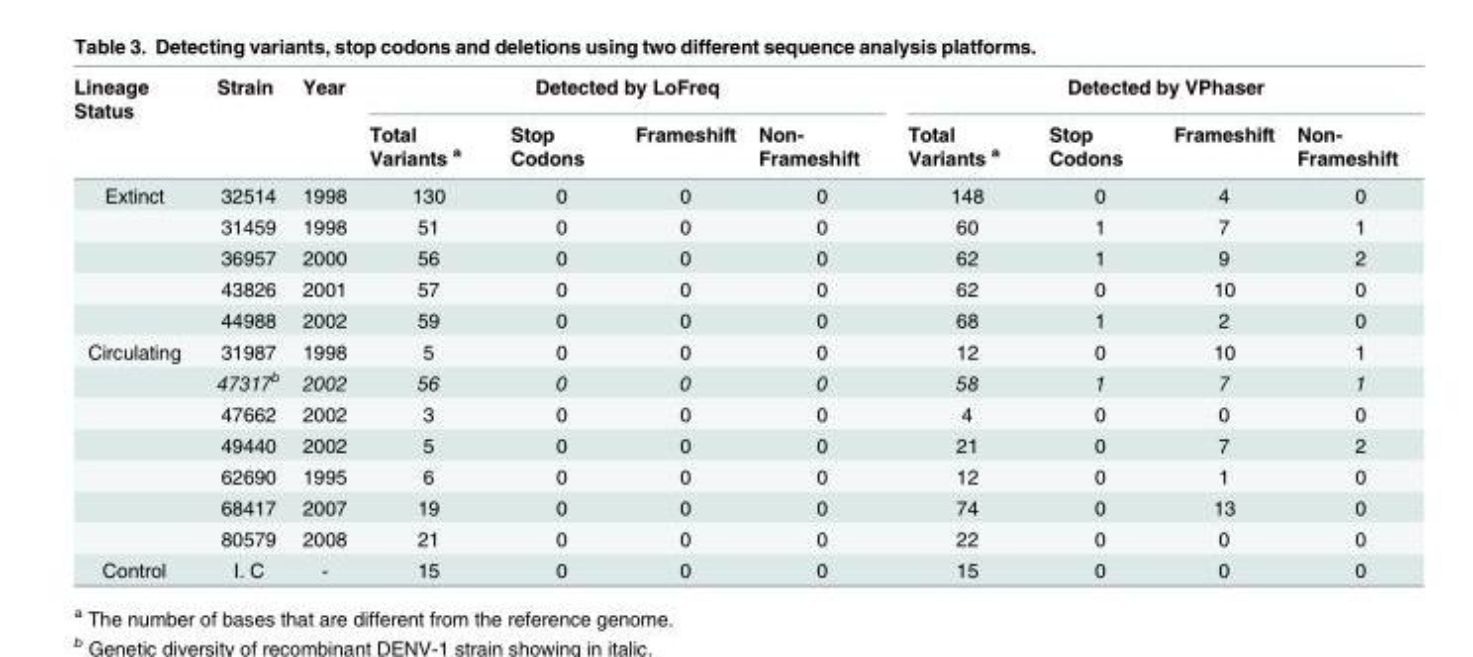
<table><thead><tr><td rowspan="2">Lineage Status</td><td rowspan="2">Strain</td><td rowspan="2">Year</td><td colspan="4">Detected by LoFreq</td><td colspan="4">Detected by VPhaser</td></tr><tr><td>Total Variants <sup>a</sup></td><td>Stop Codons</td><td>Frameshift</td><td>Non- Frameshift</td><td>Total Variants <sup>a</sup></td><td>Stop Codons</td><td>Frameshift</td><td>Non- Frameshift</td></tr></thead><tbody><tr><td rowspan="5">Extinct</td><td>32514</td><td>1998</td><td>130</td><td>0</td><td>0</td><td>0</td><td>148</td><td>0</td><td>4</td><td>0</td></tr><tr><td>31459</td><td>1998</td><td>51</td><td>0</td><td>0</td><td>0</td><td>60</td><td>1</td><td>7</td><td>1</td></tr><tr><td>36957</td><td>2000</td><td>56</td><td>0</td><td>0</td><td>0</td><td>62</td><td>1</td><td>9</td><td>2</td></tr><tr><td>43826</td><td>2001</td><td>57</td><td>0</td><td>0</td><td>0</td><td>62</td><td>0</td><td>10</td><td>0</td></tr><tr><td>44988</td><td>2002</td><td>59</td><td>0</td><td>0</td><td>0</td><td>68</td><td>1</td><td>2</td><td>0</td></tr><tr><td rowspan="7">Circulating</td><td>31987</td><td>1998</td><td>5</td><td>0</td><td>0</td><td>0</td><td>12</td><td>0</td><td>10</td><td>1</td></tr><tr><td>47317<sup>b</sup></td><td>2002</td><td>56</td><td>0</td><td>0</td><td>0</td><td>58</td><td>1</td><td>7</td><td>1</td></tr><tr><td>47662</td><td>2002</td><td>3</td><td>0</td><td>0</td><td>0</td><td>4</td><td>0</td><td>0</td><td>0</td></tr><tr><td>49440</td><td>2002</td><td>5</td><td>0</td><td>0</td><td>0</td><td>21</td><td>0</td><td>7</td><td>2</td></tr><tr><td>62690</td><td>1995</td><td>6</td><td>0</td><td>0</td><td>0</td><td>12</td><td>0</td><td>1</td><td>0</td></tr><tr><td>68417</td><td>2007</td><td>19</td><td>0</td><td>0</td><td>0</td><td>74</td><td>0</td><td>13</td><td>0</td></tr><tr><td>80579</td><td>2008</td><td>21</td><td>0</td><td>0</td><td>0</td><td>22</td><td>0</td><td>0</td><td>0</td></tr><tr><td>Control</td><td>I. C</td><td>-</td><td>15</td><td>0</td><td>0</td><td>0</td><td>15</td><td>0</td><td>0</td><td>0</td></tr></tbody></table>